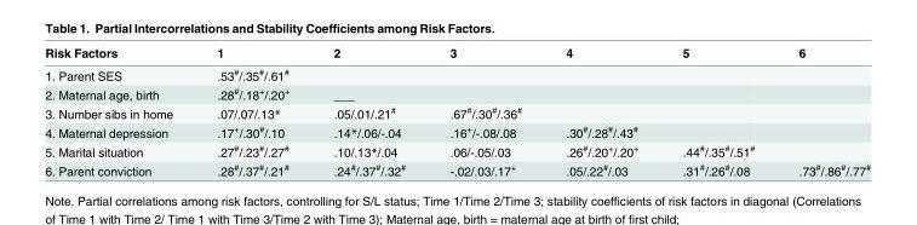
<table><thead><tr><td>Risk Factors</td><td>1</td><td>2</td><td>3</td><td>4</td><td>5</td><td>6</td></tr></thead><tbody><tr><td>1. Parent SES</td><td>.53<sup>#</sup>/.35<sup>#</sup>/.61<sup>#</sup></td><td></td><td></td><td></td><td></td><td></td></tr><tr><td>2. Maternal age, birth</td><td>.28<sup>#</sup>/.18<sup>+</sup>/.20<sup>+</sup></td><td>___</td><td></td><td></td><td></td><td></td></tr><tr><td>3. Number sibs in home</td><td>.07/.07/.13*</td><td>.05/.01/.21<sup>#</sup></td><td>.67<sup>#</sup>/.30<sup>#</sup>/.36<sup>#</sup></td><td></td><td></td><td></td></tr><tr><td>4. Maternal depression</td><td>.17<sup>+</sup>/.30<sup>#</sup>/.10</td><td>.14*/.06/-.04</td><td>.16<sup>+</sup>/-.08/.08</td><td>.30<sup>#</sup>/.28<sup>#</sup>/.43<sup>#</sup></td><td></td><td></td></tr><tr><td>5. Marital situation</td><td>.27<sup>#</sup>/.23<sup>#</sup>/.27<sup>#</sup></td><td>.10/.13*/.04</td><td>.06/-.05/.03</td><td>.26<sup>#</sup>/.20<sup>+</sup>/.20<sup>+</sup></td><td>.44<sup>#</sup>/.35<sup>#</sup>/.51<sup>#</sup></td><td></td></tr><tr><td>6. Parent conviction</td><td>.28<sup>#</sup>/.37<sup>#</sup>/.21<sup>#</sup></td><td>.24<sup>#</sup>/.37<sup>#</sup>/.32<sup>#</sup></td><td>-.02/.03/.17<sup>+</sup></td><td>.05/.22<sup>#</sup>/.03</td><td>.31<sup>#</sup>/.26<sup>#</sup>/.08</td><td>.73<sup>#</sup>/.86<sup>#</sup>/.77<sup>#</sup></td></tr></tbody></table>